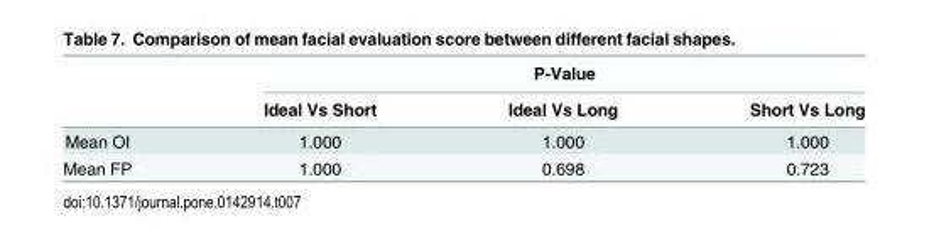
<table><thead><tr><td rowspan="2"></td><td colspan="3">P-Value</td></tr><tr><td>Ideal Vs Short</td><td>Ideal Vs Long</td><td>Short Vs Long</td></tr></thead><tbody><tr><td>Mean OI</td><td>1.000</td><td>1.000</td><td>1.000</td></tr><tr><td>Mean FP</td><td>1.000</td><td>0.698</td><td>0.723</td></tr></tbody></table>